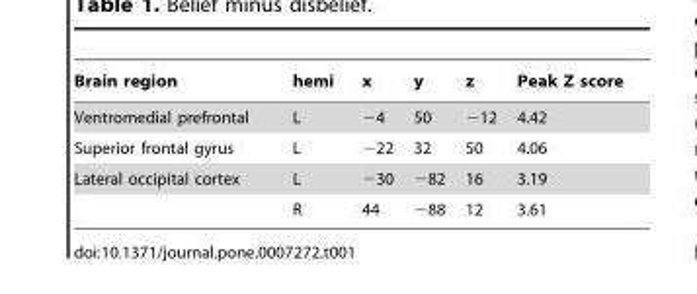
<table><thead><tr><td>Brain region</td><td>hemi</td><td>x</td><td>y</td><td>z</td><td>Peak Z score</td></tr></thead><tbody><tr><td>Ventromedial prefrontal</td><td>L</td><td>−4</td><td>50</td><td>−12</td><td>4.42</td></tr><tr><td>Superior frontal gyrus</td><td>L</td><td>−22</td><td>32</td><td>50</td><td>4.06</td></tr><tr><td rowspan="2">Lateral occipital cortex</td><td>L</td><td>−30</td><td>−82</td><td>16</td><td>3.19</td></tr><tr><td>R</td><td>44</td><td>−88</td><td>12</td><td>3.61</td></tr></tbody></table>